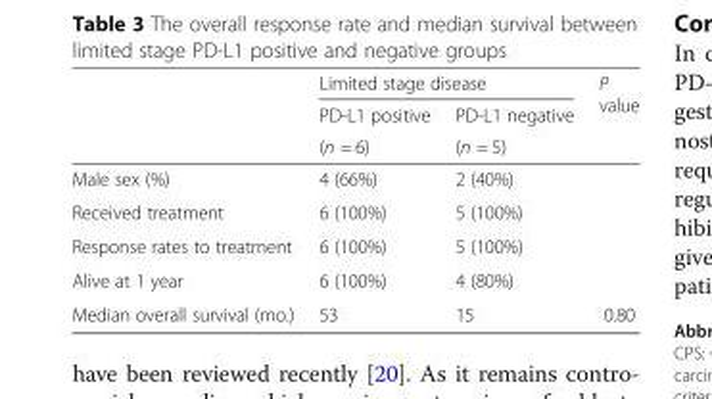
<table><thead><tr><td rowspan="3"></td><td colspan="2">Limited stage disease</td><td rowspan="3">P value</td></tr><tr><td rowspan="2">PD-L1 positive (n = 6)</td><td rowspan="2">PD-L1 negative (n = 5)</td></tr><tr></tr></thead><tbody><tr><td>Male sex (%)</td><td>4 (66%)</td><td>2 (40%)</td><td></td></tr><tr><td>Received treatment</td><td>6 (100%)</td><td>5 (100%)</td><td></td></tr><tr><td>Response rates to treatment</td><td>6 (100%)</td><td>5 (100%)</td><td></td></tr><tr><td>Alive at 1 year</td><td>6 (100%)</td><td>4 (80%)</td><td></td></tr><tr><td>Median overall survival (mo.)</td><td>53</td><td>15</td><td>0.80</td></tr></tbody></table>